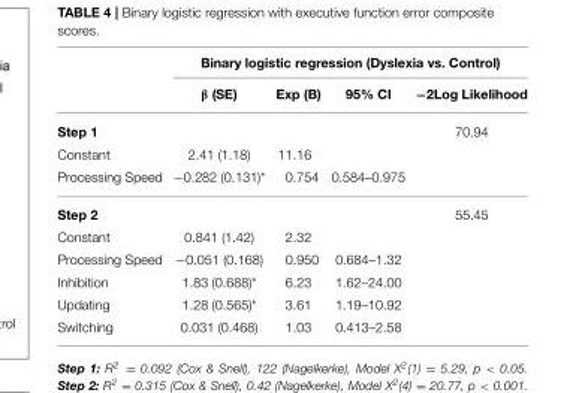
<table><thead><tr><td rowspan="2"></td><td colspan="4">Binary logistic regression (Dyslexia vs. Control)</td></tr><tr><td>β (SE)</td><td>Exp (B)</td><td>95% CI</td><td>−2Log Likelihood</td></tr></thead><tbody><tr><td>Step 1</td><td></td><td></td><td></td><td>70.94</td></tr><tr><td>Constant</td><td>2.41 (1.18)</td><td>11.16</td><td></td><td></td></tr><tr><td>Processing Speed</td><td>−0.282 (0.131)*</td><td>0.754</td><td>0.584–0.975</td><td></td></tr><tr><td>Step 2</td><td></td><td></td><td></td><td>55.45</td></tr><tr><td>Constant</td><td>0.841 (1.42)</td><td>2.32</td><td></td><td></td></tr><tr><td>Processing Speed</td><td>−0.051 (0.168)</td><td>0.950</td><td>0.684–1.32</td><td></td></tr><tr><td>Inhibition</td><td>1.83 (0.688)*</td><td>6.23</td><td>1.62–24.00</td><td></td></tr><tr><td>Updating</td><td>1.28 (0.565)*</td><td>3.61</td><td>1.19–10.92</td><td></td></tr><tr><td>Switching</td><td>0.031 (0.468)</td><td>1.03</td><td>0.413–2.58</td><td></td></tr></tbody></table>